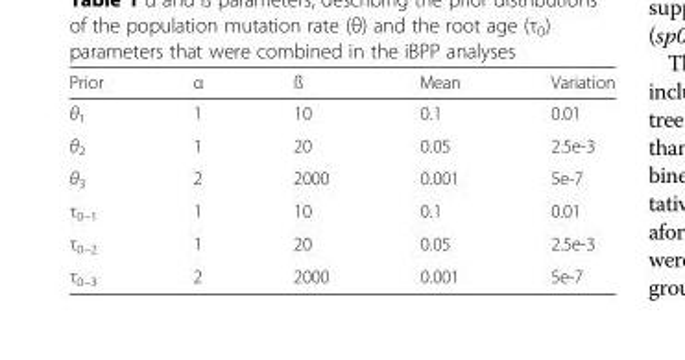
<table><thead><tr><td>Prior</td><td>α</td><td>ß</td><td>Mean</td><td>Variation</td></tr></thead><tbody><tr><td>θ<sub>1</sub></td><td>1</td><td>10</td><td>0.1</td><td>0.01</td></tr><tr><td>θ<sub>2</sub></td><td>1</td><td>20</td><td>0.05</td><td>2.5e-3</td></tr><tr><td>θ<sub>3</sub></td><td>2</td><td>2000</td><td>0.001</td><td>5e-7</td></tr><tr><td>τ<sub>0–1</sub></td><td>1</td><td>10</td><td>0.1</td><td>0.01</td></tr><tr><td>τ<sub>0–2</sub></td><td>1</td><td>20</td><td>0.05</td><td>2.5e-3</td></tr><tr><td>τ<sub>0–3</sub></td><td>2</td><td>2000</td><td>0.001</td><td>5e-7</td></tr></tbody></table>